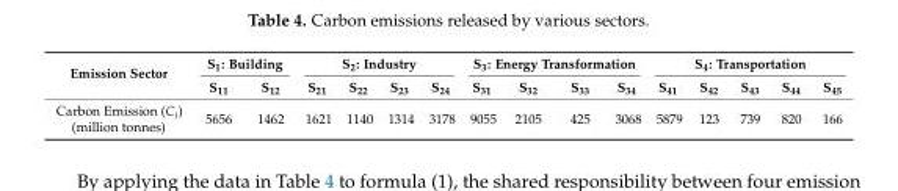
<table><thead><tr><td rowspan="2">Emission Sector</td><td colspan="2">S<sub>1</sub>: Building</td><td colspan="4">S<sub>2</sub>: Industry</td><td colspan="4">S<sub>3</sub>: Energy Transformation</td><td colspan="5">S<sub>4</sub>: Transportation</td></tr><tr><td>S<sub>11</sub></td><td>S<sub>12</sub></td><td>S<sub>21</sub></td><td>S<sub>22</sub></td><td>S<sub>23</sub></td><td>S<sub>24</sub></td><td>S<sub>31</sub></td><td>S<sub>32</sub></td><td>S<sub>33</sub></td><td>S<sub>34</sub></td><td>S<sub>41</sub></td><td>S<sub>42</sub></td><td>S<sub>43</sub></td><td>S<sub>44</sub></td><td>S<sub>45</sub></td></tr></thead><tbody><tr><td>Carbon Emission (C<sub>i</sub>) (million tonnes)</td><td>5656</td><td>1462</td><td>1621</td><td>1140</td><td>1314</td><td>3178</td><td>9055</td><td>2105</td><td>425</td><td>3068</td><td>5879</td><td>123</td><td>739</td><td>820</td><td>166</td></tr></tbody></table>